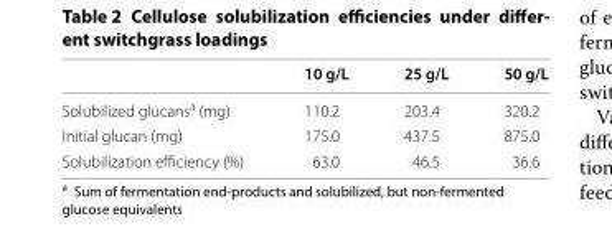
<table><thead><tr><td></td><td>10 g/L</td><td>25 g/L</td><td>50 g/L</td></tr></thead><tbody><tr><td>Solubilized glucans<sup>a</sup> (mg)</td><td>110.2</td><td>203.4</td><td>320.2</td></tr><tr><td>Initial glucan (mg)</td><td>175.0</td><td>437.5</td><td>875.0</td></tr><tr><td>Solubilization efficiency (%)</td><td>63.0</td><td>46.5</td><td>36.6</td></tr></tbody></table>